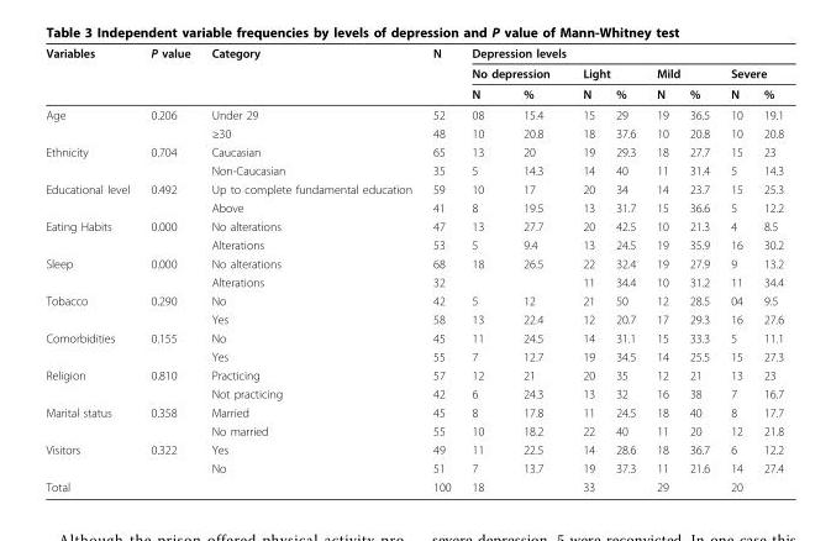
<table><thead><tr><td rowspan="3">Variables</td><td rowspan="3">P value</td><td rowspan="3">Category</td><td rowspan="3">N</td><td colspan="8">Depression levels</td></tr><tr><td colspan="2">No depression</td><td colspan="2">Light</td><td colspan="2">Mild</td><td colspan="2">Severe</td></tr><tr><td>N</td><td>%</td><td>N</td><td>%</td><td>N</td><td>%</td><td>N</td><td>%</td></tr></thead><tbody><tr><td rowspan="2">Age</td><td>0.206</td><td>Under 29</td><td>52</td><td>08</td><td>15.4</td><td>15</td><td>29</td><td>19</td><td>36.5</td><td>10</td><td>19.1</td></tr><tr><td></td><td>≥30</td><td>48</td><td>10</td><td>20.8</td><td>18</td><td>37.6</td><td>10</td><td>20.8</td><td>10</td><td>20.8</td></tr><tr><td rowspan="2">Ethnicity</td><td>0.704</td><td>Caucasian</td><td>65</td><td>13</td><td>20</td><td>19</td><td>29.3</td><td>18</td><td>27.7</td><td>15</td><td>23</td></tr><tr><td></td><td>Non-Caucasian</td><td>35</td><td>5</td><td>14.3</td><td>14</td><td>40</td><td>11</td><td>31.4</td><td>5</td><td>14.3</td></tr><tr><td rowspan="2">Educational level</td><td>0.492</td><td>Up to complete fundamental education</td><td>59</td><td>10</td><td>17</td><td>20</td><td>34</td><td>14</td><td>23.7</td><td>15</td><td>25.3</td></tr><tr><td></td><td>Above</td><td>41</td><td>8</td><td>19.5</td><td>13</td><td>31.7</td><td>15</td><td>36.6</td><td>5</td><td>12.2</td></tr><tr><td rowspan="2">Eating Habits</td><td>0.000</td><td>No alterations</td><td>47</td><td>13</td><td>27.7</td><td>20</td><td>42.5</td><td>10</td><td>21.3</td><td>4</td><td>8.5</td></tr><tr><td></td><td>Alterations</td><td>53</td><td>5</td><td>9.4</td><td>13</td><td>24.5</td><td>19</td><td>35.9</td><td>16</td><td>30.2</td></tr><tr><td rowspan="2">Sleep</td><td>0.000</td><td>No alterations</td><td>68</td><td>18</td><td>26.5</td><td>22</td><td>32.4</td><td>19</td><td>27.9</td><td>9</td><td>13.2</td></tr><tr><td></td><td>Alterations</td><td>32</td><td></td><td></td><td>11</td><td>34.4</td><td>10</td><td>31.2</td><td>11</td><td>34.4</td></tr><tr><td rowspan="2">Tobacco</td><td>0.290</td><td>No</td><td>42</td><td>5</td><td>12</td><td>21</td><td>50</td><td>12</td><td>28.5</td><td>04</td><td>9.5</td></tr><tr><td></td><td>Yes</td><td>58</td><td>13</td><td>22.4</td><td>12</td><td>20.7</td><td>17</td><td>29.3</td><td>16</td><td>27.6</td></tr><tr><td rowspan="2">Comorbidities</td><td>0.155</td><td>No</td><td>45</td><td>11</td><td>24.5</td><td>14</td><td>31.1</td><td>15</td><td>33.3</td><td>5</td><td>11.1</td></tr><tr><td></td><td>Yes</td><td>55</td><td>7</td><td>12.7</td><td>19</td><td>34.5</td><td>14</td><td>25.5</td><td>15</td><td>27.3</td></tr><tr><td rowspan="2">Religion</td><td>0.810</td><td>Practicing</td><td>57</td><td>12</td><td>21</td><td>20</td><td>35</td><td>12</td><td>21</td><td>13</td><td>23</td></tr><tr><td></td><td>Not practicing</td><td>42</td><td>6</td><td>24.3</td><td>13</td><td>32</td><td>16</td><td>38</td><td>7</td><td>16.7</td></tr><tr><td rowspan="2">Marital status</td><td>0.358</td><td>Married</td><td>45</td><td>8</td><td>17.8</td><td>11</td><td>24.5</td><td>18</td><td>40</td><td>8</td><td>17.7</td></tr><tr><td></td><td>No married</td><td>55</td><td>10</td><td>18.2</td><td>22</td><td>40</td><td>11</td><td>20</td><td>12</td><td>21.8</td></tr><tr><td rowspan="2">Visitors</td><td>0.322</td><td>Yes</td><td>49</td><td>11</td><td>22.5</td><td>14</td><td>28.6</td><td>18</td><td>36.7</td><td>6</td><td>12.2</td></tr><tr><td></td><td>No</td><td>51</td><td>7</td><td>13.7</td><td>19</td><td>37.3</td><td>11</td><td>21.6</td><td>14</td><td>27.4</td></tr><tr><td>Total</td><td></td><td></td><td>100</td><td>18</td><td></td><td>33</td><td></td><td>29</td><td></td><td>20</td><td></td></tr></tbody></table>